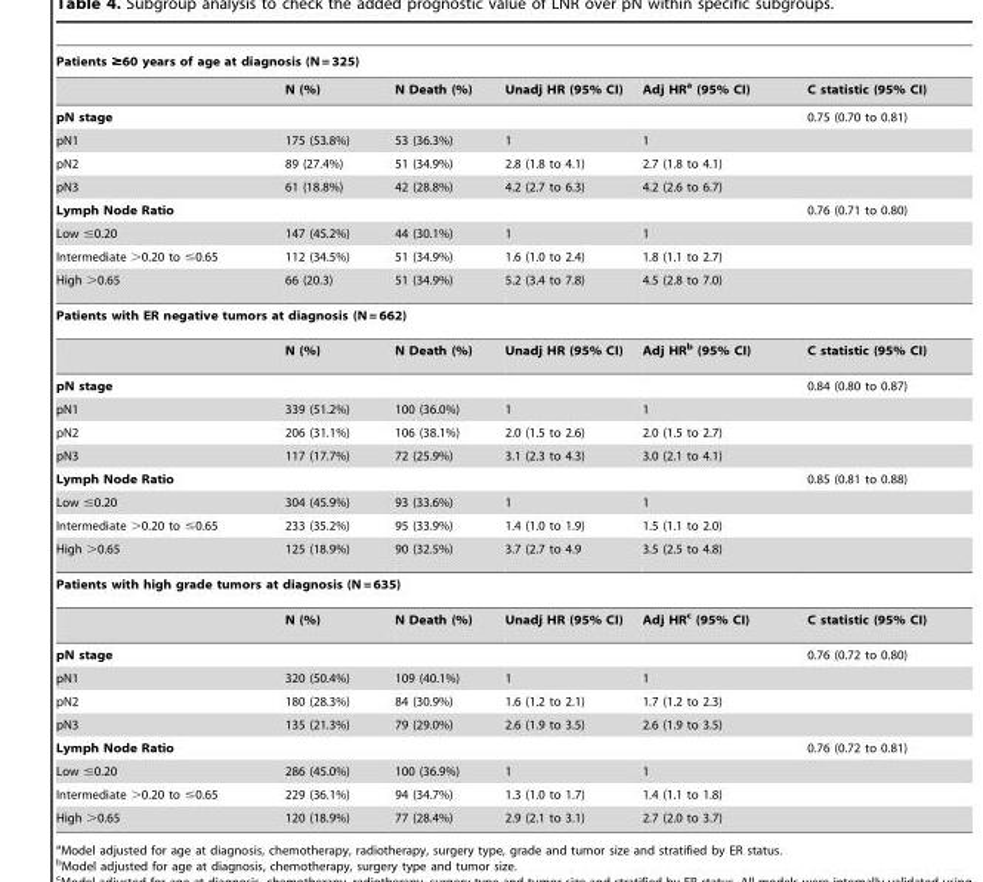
<table><thead><tr><td colspan="6">Patients ≥60 years of age at diagnosis (N = 325)</td></tr><tr><td></td><td>N (%)</td><td>N Death (%)</td><td>Unadj HR (95% CI)</td><td>Adj HR<sup>a</sup> (95% CI)</td><td>C statistic (95% CI)</td></tr></thead><tbody><tr><td>pN stage</td><td></td><td></td><td></td><td></td><td>0.75 (0.70 to 0.81)</td></tr><tr><td>pN1</td><td>175 (53.8%)</td><td>53 (36.3%)</td><td>1</td><td>1</td><td></td></tr><tr><td>pN2</td><td>89 (27.4%)</td><td>51 (34.9%)</td><td>2.8 (1.8 to 4.1)</td><td>2.7 (1.8 to 4.1)</td><td></td></tr><tr><td>pN3</td><td>61 (18.8%)</td><td>42 (28.8%)</td><td>4.2 (2.7 to 6.3)</td><td>4.2 (2.6 to 6.7)</td><td></td></tr><tr><td>Lymph Node Ratio</td><td></td><td></td><td></td><td></td><td>0.76 (0.71 to 0.80)</td></tr><tr><td>Low ≤0.20</td><td>147 (45.2%)</td><td>44 (30.1%)</td><td>1</td><td>1</td><td></td></tr><tr><td>Intermediate &gt;0.20 to ≤0.65</td><td>112 (34.5%)</td><td>51 (34.9%)</td><td>1.6 (1.0 to 2.4)</td><td>1.8 (1.1 to 2.7)</td><td></td></tr><tr><td>High &gt;0.65</td><td>66 (20.3)</td><td>51 (34.9%)</td><td>5.2 (3.4 to 7.8)</td><td>4.5 (2.8 to 7.0)</td><td></td></tr><tr><td colspan="6">Patients with ER negative tumors at diagnosis (N = 662)</td></tr><tr><td></td><td>N (%)</td><td>N Death (%)</td><td>Unadj HR (95% CI)</td><td>Adj HRb (95% CI)</td><td>C statistic (95% CI)</td></tr><tr><td>pN stage</td><td></td><td></td><td></td><td></td><td>0.84 (0.80 to 0.87)</td></tr><tr><td>pN1</td><td>339 (51.2%)</td><td>100 (36.0%)</td><td>1</td><td>1</td><td></td></tr><tr><td>pN2</td><td>206 (31.1%)</td><td>106 (38.1%)</td><td>2.0 (1.5 to 2.6)</td><td>2.0 (1.5 to 2.7)</td><td></td></tr><tr><td>pN3</td><td>117 (17.7%)</td><td>72 (25.9%)</td><td>3.1 (2.3 to 4.3)</td><td>3.0 (2.1 to 4.1)</td><td></td></tr><tr><td>Lymph Node Ratio</td><td></td><td></td><td></td><td></td><td>0.85 (0.81 to 0.88)</td></tr><tr><td>Low ≤0.20</td><td>304 (45.9%)</td><td>93 (33.6%)</td><td>1</td><td>1</td><td></td></tr><tr><td>Intermediate &gt;0.20 to ≤0.65</td><td>233 (35.2%)</td><td>95 (33.9%)</td><td>1.4 (1.0 to 1.9)</td><td>1.5 (1.1 to 2.0)</td><td></td></tr><tr><td>High &gt;0.65</td><td>125 (18.9%)</td><td>90 (32.5%)</td><td>3.7 (2.7 to 4.9</td><td>3.5 (2.5 to 4.8)</td><td></td></tr><tr><td colspan="6">Patients with high grade tumors at diagnosis (N = 635)</td></tr><tr><td></td><td>N (%)</td><td>N Death (%)</td><td>Unadj HR (95% CI)</td><td>Adj HRc (95% CI)</td><td>C statistic (95% CI)</td></tr><tr><td>pN stage</td><td></td><td></td><td></td><td></td><td>0.76 (0.72 to 0.80)</td></tr><tr><td>pN1</td><td>320 (50.4%)</td><td>109 (40.1%)</td><td>1</td><td>1</td><td></td></tr><tr><td>pN2</td><td>180 (28.3%)</td><td>84 (30.9%)</td><td>1.6 (1.2 to 2.1)</td><td>1.7 (1.2 to 2.3)</td><td></td></tr><tr><td>pN3</td><td>135 (21.3%)</td><td>79 (29.0%)</td><td>2.6 (1.9 to 3.5)</td><td>2.6 (1.9 to 3.5)</td><td></td></tr><tr><td>Lymph Node Ratio</td><td></td><td></td><td></td><td></td><td>0.76 (0.72 to 0.81)</td></tr><tr><td>Low ≤0.20</td><td>286 (45.0%)</td><td>100 (36.9%)</td><td>1</td><td>1</td><td></td></tr><tr><td>Intermediate &gt;0.20 to ≤0.65</td><td>229 (36.1%)</td><td>94 (34.7%)</td><td>1.3 (1.0 to 1.7)</td><td>1.4 (1.1 to 1.8)</td><td></td></tr><tr><td>High &gt;0.65</td><td>120 (18.9%)</td><td>77 (28.4%)</td><td>2.9 (2.1 to 3.1)</td><td>2.7 (2.0 to 3.7)</td><td></td></tr></tbody></table>